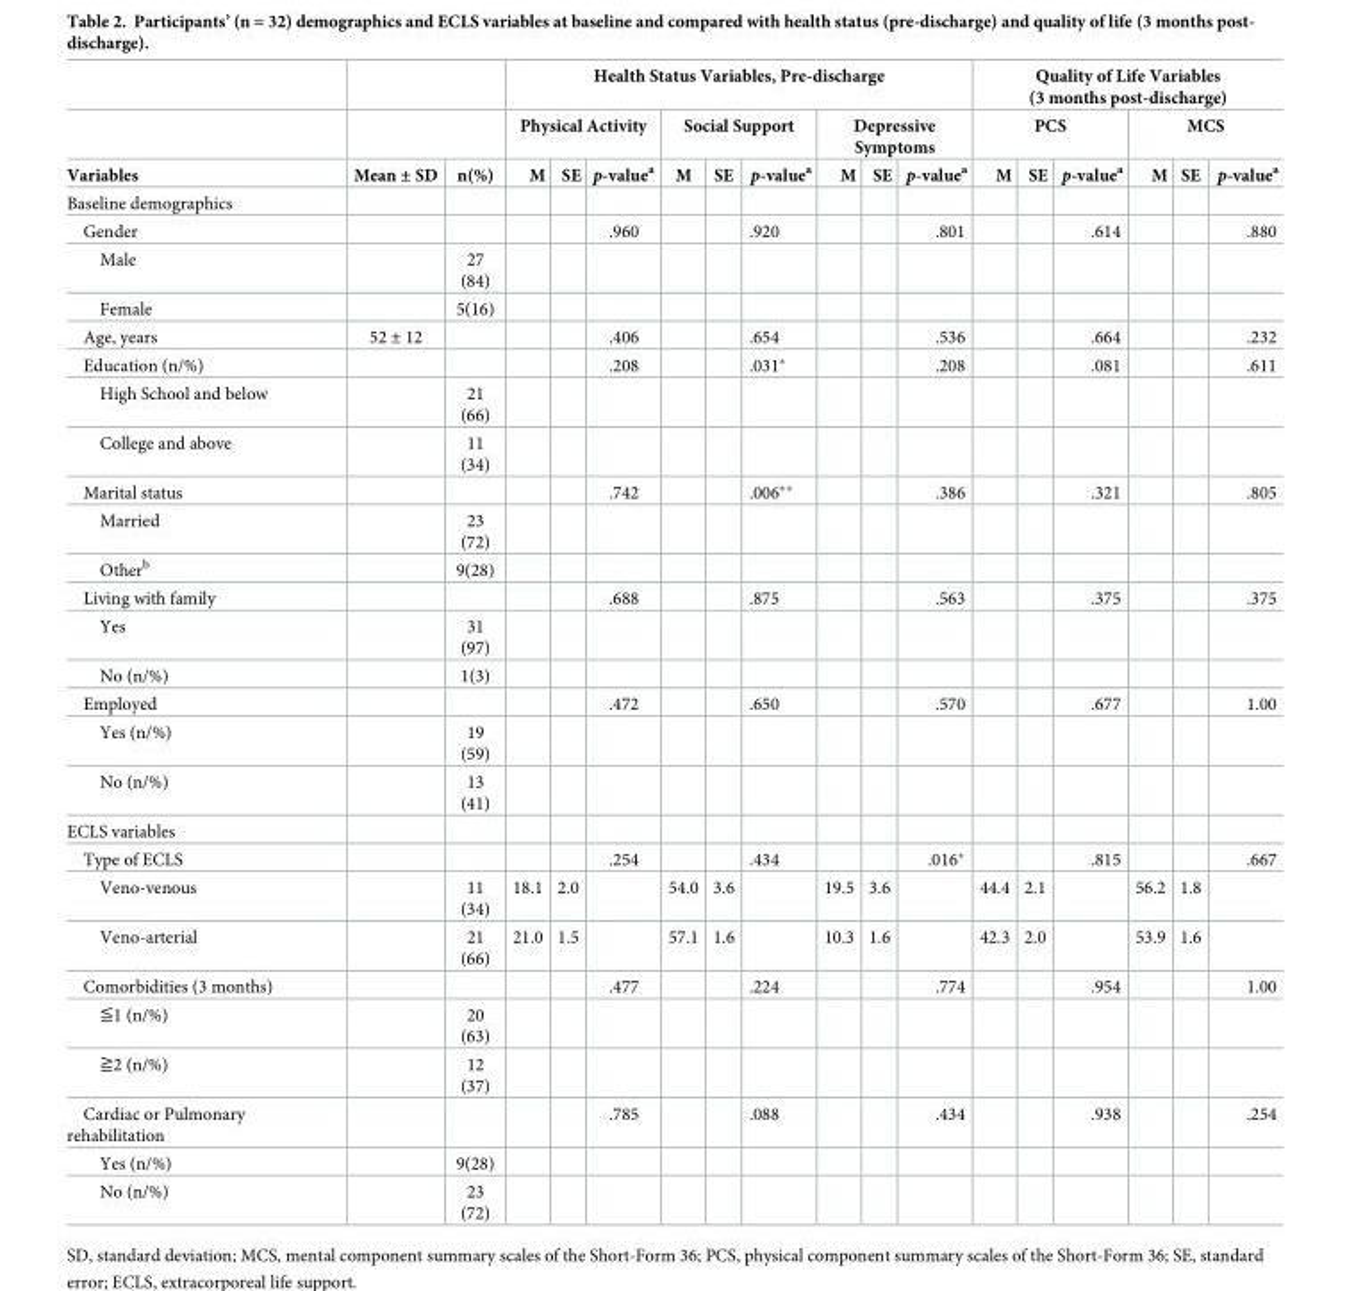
<table><thead><tr><td rowspan="3">Variables</td><td rowspan="3">Mean ± SD</td><td rowspan="3">n(%)</td><td colspan="9">Health Status Variables, Pre-discharge</td><td colspan="6">Quality of Life Variables (3 months post-discharge)</td></tr><tr><td colspan="3">Physical Activity</td><td colspan="3">Social Support</td><td colspan="3">Depressive Symptoms</td><td colspan="3">PCS</td><td colspan="3">MCS</td></tr><tr><td>M</td><td>SE</td><td>p-value<sup>a</sup></td><td>M</td><td>SE</td><td>p-value<sup>a</sup></td><td>M</td><td>SE</td><td>p-value<sup>a</sup></td><td>M</td><td>SE</td><td>p-value<sup>a</sup></td><td>M</td><td>SE</td><td>p-value<sup>a</sup></td></tr></thead><tbody><tr><td colspan="18">Baseline demographics</td></tr><tr><td>Gender</td><td></td><td></td><td></td><td></td><td>.960</td><td></td><td></td><td>.920</td><td></td><td></td><td>.801</td><td></td><td></td><td>.614</td><td></td><td></td><td>.880</td></tr><tr><td>Male</td><td></td><td>27 (84)</td><td></td><td></td><td></td><td></td><td></td><td></td><td></td><td></td><td></td><td></td><td></td><td></td><td></td><td></td><td></td></tr><tr><td>Female</td><td></td><td>5(16)</td><td></td><td></td><td></td><td></td><td></td><td></td><td></td><td></td><td></td><td></td><td></td><td></td><td></td><td></td><td></td></tr><tr><td>Age, years</td><td>52 ± 12</td><td></td><td></td><td></td><td>.406</td><td></td><td></td><td>.654</td><td></td><td></td><td>.536</td><td></td><td></td><td>.664</td><td></td><td></td><td>.232</td></tr><tr><td>Education (n/%)</td><td></td><td></td><td></td><td></td><td>.208</td><td></td><td></td><td>.031*</td><td></td><td></td><td>.208</td><td></td><td></td><td>.081</td><td></td><td></td><td>.611</td></tr><tr><td>High School and below</td><td></td><td>21 (66)</td><td></td><td></td><td></td><td></td><td></td><td></td><td></td><td></td><td></td><td></td><td></td><td></td><td></td><td></td><td></td></tr><tr><td>College and above</td><td></td><td>11 (34)</td><td></td><td></td><td></td><td></td><td></td><td></td><td></td><td></td><td></td><td></td><td></td><td></td><td></td><td></td><td></td></tr><tr><td>Marital status</td><td></td><td></td><td></td><td></td><td>.742</td><td></td><td></td><td>.006**</td><td></td><td></td><td>.386</td><td></td><td></td><td>.321</td><td></td><td></td><td>.805</td></tr><tr><td>Married</td><td></td><td>23 (72)</td><td></td><td></td><td></td><td></td><td></td><td></td><td></td><td></td><td></td><td></td><td></td><td></td><td></td><td></td><td></td></tr><tr><td>Other<sup>b</sup></td><td></td><td>9(28)</td><td></td><td></td><td></td><td></td><td></td><td></td><td></td><td></td><td></td><td></td><td></td><td></td><td></td><td></td><td></td></tr><tr><td>Living with family</td><td></td><td></td><td></td><td></td><td>.688</td><td></td><td></td><td>.875</td><td></td><td></td><td>.563</td><td></td><td></td><td>.375</td><td></td><td></td><td>.375</td></tr><tr><td>Yes</td><td></td><td>31 (97)</td><td></td><td></td><td></td><td></td><td></td><td></td><td></td><td></td><td></td><td></td><td></td><td></td><td></td><td></td><td></td></tr><tr><td>No (n/%)</td><td></td><td>1(3)</td><td></td><td></td><td></td><td></td><td></td><td></td><td></td><td></td><td></td><td></td><td></td><td></td><td></td><td></td><td></td></tr><tr><td>Employed</td><td></td><td></td><td></td><td></td><td>.472</td><td></td><td></td><td>.650</td><td></td><td></td><td>.570</td><td></td><td></td><td>.677</td><td></td><td></td><td>1.00</td></tr><tr><td>Yes (n/%)</td><td></td><td>19 (59)</td><td></td><td></td><td></td><td></td><td></td><td></td><td></td><td></td><td></td><td></td><td></td><td></td><td></td><td></td><td></td></tr><tr><td>No (n/%)</td><td></td><td>13 (41)</td><td></td><td></td><td></td><td></td><td></td><td></td><td></td><td></td><td></td><td></td><td></td><td></td><td></td><td></td><td></td></tr><tr><td colspan="18">ECLS variables</td></tr><tr><td>Type of ECLS</td><td></td><td></td><td></td><td></td><td>.254</td><td></td><td></td><td>.434</td><td></td><td></td><td>.016*</td><td></td><td></td><td>.815</td><td></td><td></td><td>.667</td></tr><tr><td>Veno-venous</td><td></td><td>11 (34)</td><td>18.1</td><td>2.0</td><td></td><td>54.0</td><td>3.6</td><td></td><td>19.5</td><td>3.6</td><td></td><td>44.4</td><td>2.1</td><td></td><td>56.2</td><td>1.8</td><td></td></tr><tr><td>Veno-arterial</td><td></td><td>21 (66)</td><td>21.0</td><td>1.5</td><td></td><td>57.1</td><td>1.6</td><td></td><td>10.3</td><td>1.6</td><td></td><td>42.3</td><td>2.0</td><td></td><td>53.9</td><td>1.6</td><td></td></tr><tr><td>Comorbidities (3 months)</td><td></td><td></td><td></td><td></td><td>.477</td><td></td><td></td><td>.224</td><td></td><td></td><td>.774</td><td></td><td></td><td>.954</td><td></td><td></td><td>1.00</td></tr><tr><td>≦1 (n/%)</td><td></td><td>20 (63)</td><td></td><td></td><td></td><td></td><td></td><td></td><td></td><td></td><td></td><td></td><td></td><td></td><td></td><td></td><td></td></tr><tr><td>≧2 (n/%)</td><td></td><td>12 (37)</td><td></td><td></td><td></td><td></td><td></td><td></td><td></td><td></td><td></td><td></td><td></td><td></td><td></td><td></td><td></td></tr><tr><td>Cardiac or Pulmonary rehabilitation</td><td></td><td></td><td></td><td></td><td>.785</td><td></td><td></td><td>.088</td><td></td><td></td><td>.434</td><td></td><td></td><td>.938</td><td></td><td></td><td>.254</td></tr><tr><td>Yes (n/%)</td><td></td><td>9(28)</td><td></td><td></td><td></td><td></td><td></td><td></td><td></td><td></td><td></td><td></td><td></td><td></td><td></td><td></td><td></td></tr><tr><td>No (n/%)</td><td></td><td>23 (72)</td><td></td><td></td><td></td><td></td><td></td><td></td><td></td><td></td><td></td><td></td><td></td><td></td><td></td><td></td><td></td></tr></tbody></table>